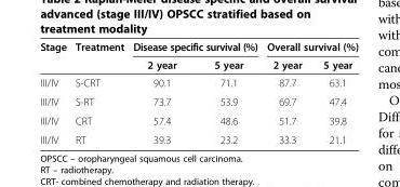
<table><thead><tr><td rowspan="2">Stage</td><td rowspan="2">Treatment</td><td colspan="2">Disease specific survival (%)</td><td colspan="2">Overall survival (%)</td></tr><tr><td>2 year</td><td>5 year</td><td>2 year</td><td>5 year</td></tr></thead><tbody><tr><td>III/IV</td><td>S-CRT</td><td>90.1</td><td>71.1</td><td>87.7</td><td>63.1</td></tr><tr><td>III/IV</td><td>S-RT</td><td>73.7</td><td>53.9</td><td>69.7</td><td>47.4</td></tr><tr><td>III/IV</td><td>CRT</td><td>57.4</td><td>48.6</td><td>51.7</td><td>39.8</td></tr><tr><td>III/IV</td><td>RT</td><td>39.3</td><td>23.2</td><td>33.3</td><td>21.1</td></tr></tbody></table>